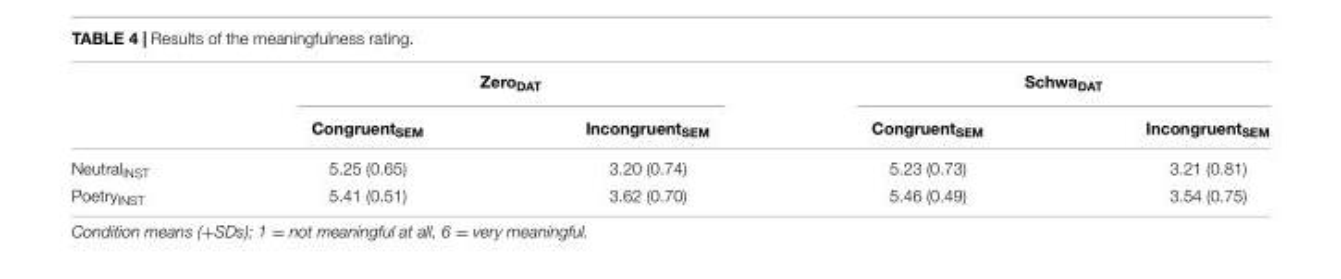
<table><thead><tr><td rowspan="2"></td><td colspan="2">Zero<sub>DAT</sub></td><td colspan="2">Schwa<sub>DAT</sub></td></tr><tr><td>Congruent<sub>SEM</sub></td><td>Incongruent<sub>SEM</sub></td><td>Congruent<sub>SEM</sub></td><td>Incongruent<sub>SEM</sub></td></tr></thead><tbody><tr><td>Neutral<sub>INST</sub></td><td>5.25 (0.65)</td><td>3.20 (0.74)</td><td>5.23 (0.73)</td><td>3.21 (0.81)</td></tr><tr><td>Poetry<sub>INST</sub></td><td>5.41 (0.51)</td><td>3.62 (0.70)</td><td>5.46 (0.49)</td><td>3.54 (0.75)</td></tr></tbody></table>